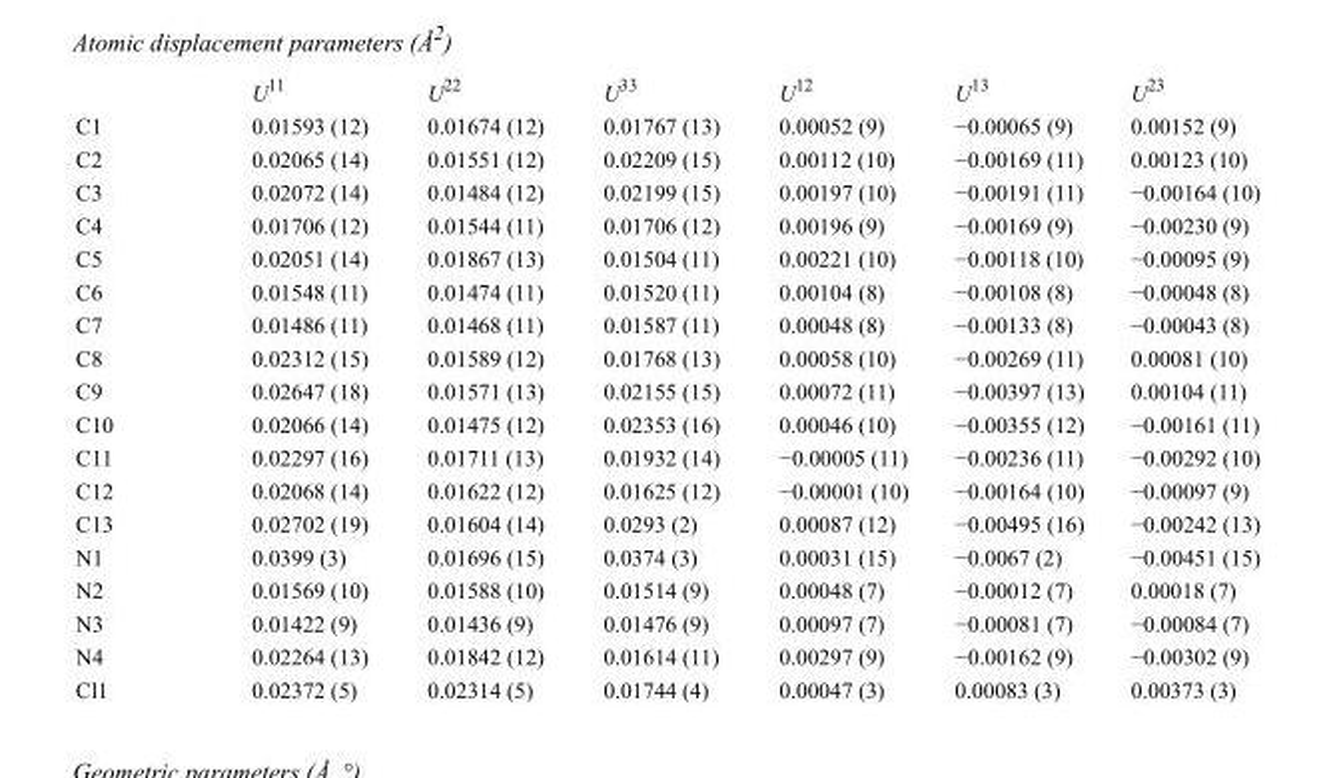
<table><thead><tr><td></td><td>U<sup>11</sup></td><td>U<sup>22</sup></td><td>U<sup>33</sup></td><td>U<sup>12</sup></td><td>U<sup>13</sup></td><td>U<sup>23</sup></td></tr></thead><tbody><tr><td>C1</td><td>0.01593 (12)</td><td>0.01674 (12)</td><td>0.01767 (13)</td><td>0.00052 (9)</td><td>−0.00065 (9)</td><td>0.00152 (9)</td></tr><tr><td>C2</td><td>0.02065 (14)</td><td>0.01551 (12)</td><td>0.02209 (15)</td><td>0.00112 (10)</td><td>−0.00169 (11)</td><td>0.00123 (10)</td></tr><tr><td>C3</td><td>0.02072 (14)</td><td>0.01484 (12)</td><td>0.02199 (15)</td><td>0.00197 (10)</td><td>−0.00191 (11)</td><td>−0.00164 (10)</td></tr><tr><td>C4</td><td>0.01706 (12)</td><td>0.01544 (11)</td><td>0.01706 (12)</td><td>0.00196 (9)</td><td>−0.00169 (9)</td><td>−0.00230 (9)</td></tr><tr><td>C5</td><td>0.02051 (14)</td><td>0.01867 (13)</td><td>0.01504 (11)</td><td>0.00221 (10)</td><td>−0.00118 (10)</td><td>−0.00095 (9)</td></tr><tr><td>C6</td><td>0.01548 (11)</td><td>0.01474 (11)</td><td>0.01520 (11)</td><td>0.00104 (8)</td><td>−0.00108 (8)</td><td>−0.00048 (8)</td></tr><tr><td>C7</td><td>0.01486 (11)</td><td>0.01468 (11)</td><td>0.01587 (11)</td><td>0.00048 (8)</td><td>−0.00133 (8)</td><td>−0.00043 (8)</td></tr><tr><td>C8</td><td>0.02312 (15)</td><td>0.01589 (12)</td><td>0.01768 (13)</td><td>0.00058 (10)</td><td>−0.00269 (11)</td><td>0.00081 (10)</td></tr><tr><td>C9</td><td>0.02647 (18)</td><td>0.01571 (13)</td><td>0.02155 (15)</td><td>0.00072 (11)</td><td>−0.00397 (13)</td><td>0.00104 (11)</td></tr><tr><td>C10</td><td>0.02066 (14)</td><td>0.01475 (12)</td><td>0.02353 (16)</td><td>0.00046 (10)</td><td>−0.00355 (12)</td><td>−0.00161 (11)</td></tr><tr><td>C11</td><td>0.02297 (16)</td><td>0.01711 (13)</td><td>0.01932 (14)</td><td>−0.00005 (11)</td><td>−0.00236 (11)</td><td>−0.00292 (10)</td></tr><tr><td>C12</td><td>0.02068 (14)</td><td>0.01622 (12)</td><td>0.01625 (12)</td><td>−0.00001 (10)</td><td>−0.00164 (10)</td><td>−0.00097 (9)</td></tr><tr><td>C13</td><td>0.02702 (19)</td><td>0.01604 (14)</td><td>0.0293 (2)</td><td>0.00087 (12)</td><td>−0.00495 (16)</td><td>−0.00242 (13)</td></tr><tr><td>N1</td><td>0.0399 (3)</td><td>0.01696 (15)</td><td>0.0374 (3)</td><td>0.00031 (15)</td><td>−0.0067 (2)</td><td>−0.00451 (15)</td></tr><tr><td>N2</td><td>0.01569 (10)</td><td>0.01588 (10)</td><td>0.01514 (9)</td><td>0.00048 (7)</td><td>−0.00012 (7)</td><td>0.00018 (7)</td></tr><tr><td>N3</td><td>0.01422 (9)</td><td>0.01436 (9)</td><td>0.01476 (9)</td><td>0.00097 (7)</td><td>−0.00081 (7)</td><td>−0.00084 (7)</td></tr><tr><td>N4</td><td>0.02264 (13)</td><td>0.01842 (12)</td><td>0.01614 (11)</td><td>0.00297 (9)</td><td>−0.00162 (9)</td><td>−0.00302 (9)</td></tr><tr><td>Cl1</td><td>0.02372 (5)</td><td>0.02314 (5)</td><td>0.01744 (4)</td><td>0.00047 (3)</td><td>0.00083 (3)</td><td>0.00373 (3)</td></tr></tbody></table>